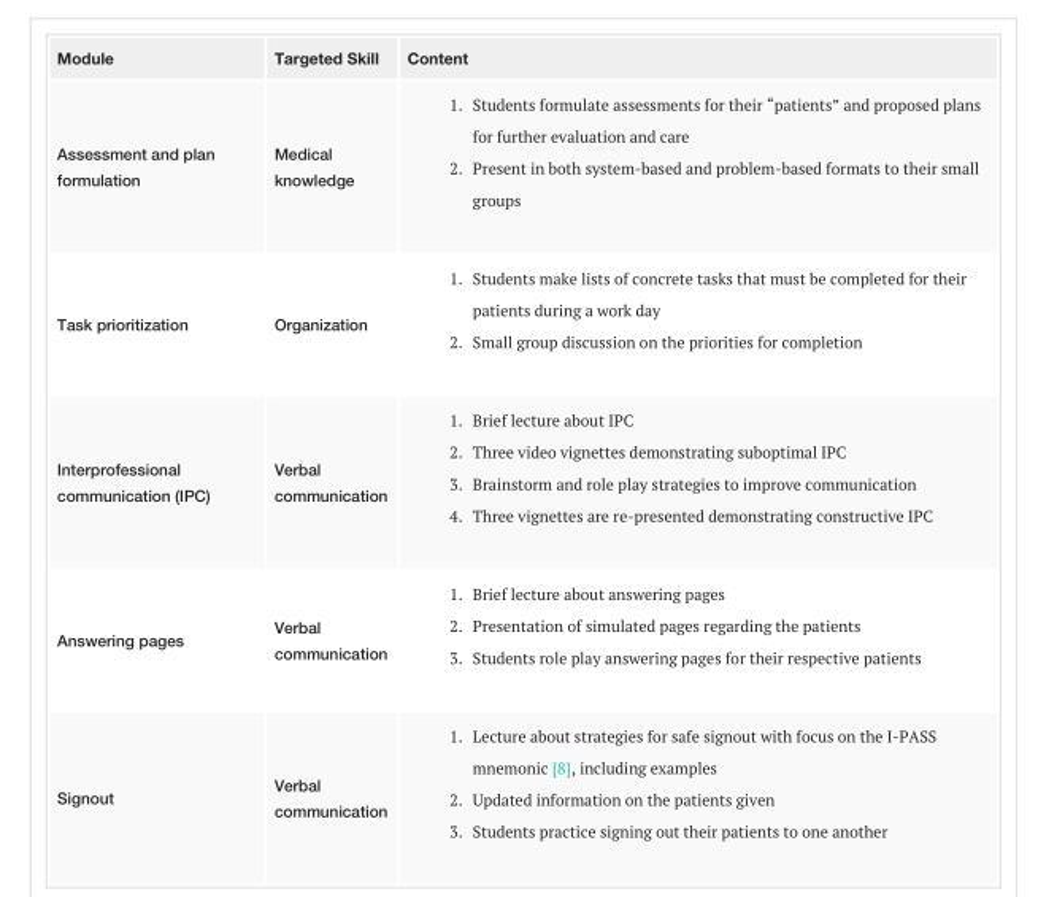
<table><tbody><tr><td>Module</td><td>Targeted Skill</td><td>Content</td></tr><tr><td>Assessment and plan formulation</td><td>Medical knowledge</td><td>1. Students formulate assessments for their “patients” and proposed plans for further evaluation and care 2. Present in both system-based and problem-based formats to their small groups</td></tr><tr><td>Task prioritization</td><td>Organization</td><td>1. Students make lists of concrete tasks that must be completed for their patients during a work day 2. Small group discussion on the priorities for completion</td></tr><tr><td>Interprofessional communication (IPC)</td><td>Verbal communication</td><td>1. Brief lecture about IPC 2. Three video vignettes demonstrating suboptimal IPC 3. Brainstorm and role play strategies to improve communication 4. Three vignettes are re-presented demonstrating constructive IPC</td></tr><tr><td>Answering pages</td><td>Verbal communication</td><td>1. Brief lecture about answering pages 2. Presentation of simulated pages regarding the patients 3. Students role play answering pages for their respective patients</td></tr><tr><td>Signout</td><td>Verbal communication</td><td>1. Lecture about strategies for safe signout with focus on the I-PASS mnemonic [8], including examples 2. Updated information on the patients given 3. Students practice signing out their patients to one another</td></tr></tbody></table>